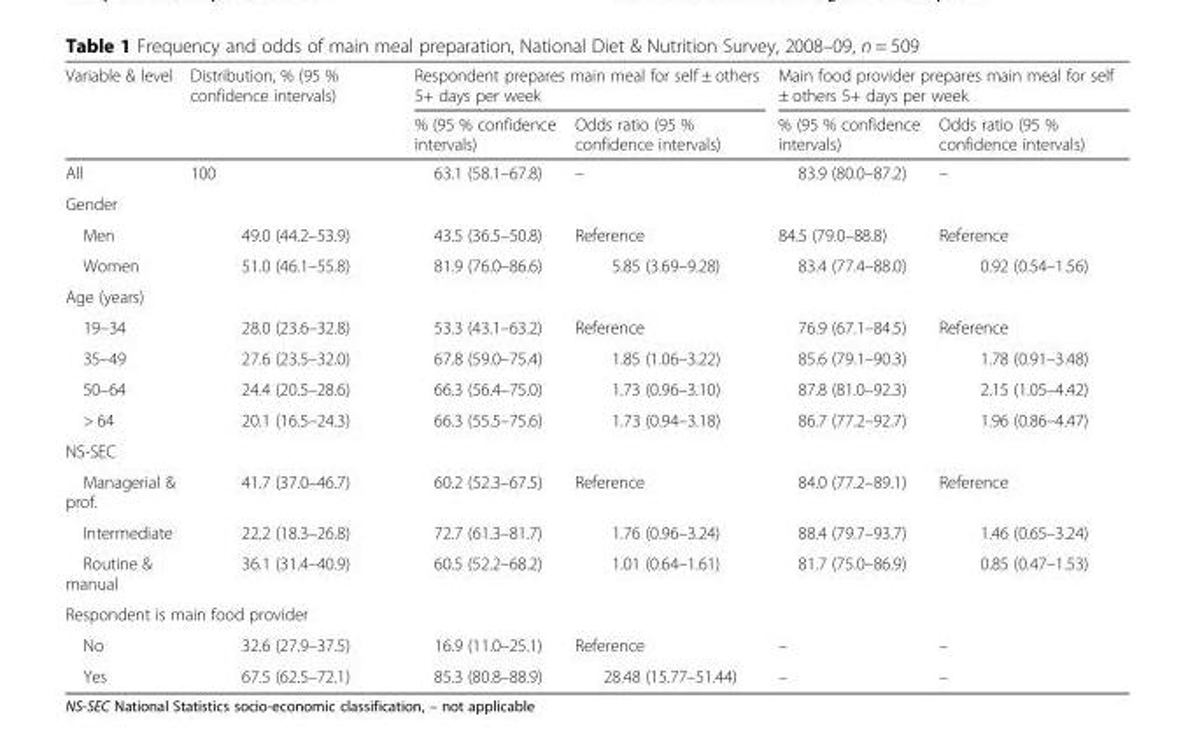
<table><thead><tr><td rowspan="2">Variable &amp; level</td><td rowspan="2">Distribution, % (95 % confidence intervals)</td><td colspan="2">Respondent prepares main meal for self ± others 5+ days per week</td><td colspan="2">Main food provider prepares main meal for self ± others 5+ days per week</td></tr><tr><td>% (95 % confidence intervals)</td><td>Odds ratio (95 % confidence intervals)</td><td>% (95 % confidence intervals)</td><td>Odds ratio (95 % confidence intervals)</td></tr></thead><tbody><tr><td>All</td><td>100</td><td>63.1 (58.1–67.8)</td><td>–</td><td>83.9 (80.0–87.2)</td><td>–</td></tr><tr><td colspan="6">Gender</td></tr><tr><td>Men</td><td>49.0 (44.2–53.9)</td><td>43.5 (36.5–50.8)</td><td>Reference</td><td>84.5 (79.0–88.8)</td><td>Reference</td></tr><tr><td>Women</td><td>51.0 (46.1–55.8)</td><td>81.9 (76.0–86.6)</td><td>5.85 (3.69–9.28)</td><td>83.4 (77.4–88.0)</td><td>0.92 (0.54–1.56)</td></tr><tr><td colspan="6">Age (years)</td></tr><tr><td>19–34</td><td>28.0 (23.6–32.8)</td><td>53.3 (43.1–63.2)</td><td>Reference</td><td>76.9 (67.1–84.5)</td><td>Reference</td></tr><tr><td>35–49</td><td>27.6 (23.5–32.0)</td><td>67.8 (59.0–75.4)</td><td>1.85 (1.06–3.22)</td><td>85.6 (79.1–90.3)</td><td>1.78 (0.91–3.48)</td></tr><tr><td>50–64</td><td>24.4 (20.5–28.6)</td><td>66.3 (56.4–75.0)</td><td>1.73 (0.96–3.10)</td><td>87.8 (81.0–92.3)</td><td>2.15 (1.05–4.42)</td></tr><tr><td>&gt; 64</td><td>20.1 (16.5–24.3)</td><td>66.3 (55.5–75.6)</td><td>1.73 (0.94–3.18)</td><td>86.7 (77.2–92.7)</td><td>1.96 (0.86–4.47)</td></tr><tr><td colspan="6">NS-SEC</td></tr><tr><td>Managerial &amp; prof.</td><td>41.7 (37.0–46.7)</td><td>60.2 (52.3–67.5)</td><td>Reference</td><td>84.0 (77.2–89.1)</td><td>Reference</td></tr><tr><td>Intermediate</td><td>22.2 (18.3–26.8)</td><td>72.7 (61.3–81.7)</td><td>1.76 (0.96–3.24)</td><td>88.4 (79.7–93.7)</td><td>1.46 (0.65–3.24)</td></tr><tr><td>Routine &amp; manual</td><td>36.1 (31.4–40.9)</td><td>60.5 (52.2–68.2)</td><td>1.01 (0.64–1.61)</td><td>81.7 (75.0–86.9)</td><td>0.85 (0.47–1.53)</td></tr><tr><td colspan="6">Respondent is main food provider</td></tr><tr><td>No</td><td>32.6 (27.9–37.5)</td><td>16.9 (11.0–25.1)</td><td>Reference</td><td>–</td><td>–</td></tr><tr><td>Yes</td><td>67.5 (62.5–72.1)</td><td>85.3 (80.8–88.9)</td><td>28.48 (15.77–51.44)</td><td>–</td><td>–</td></tr></tbody></table>